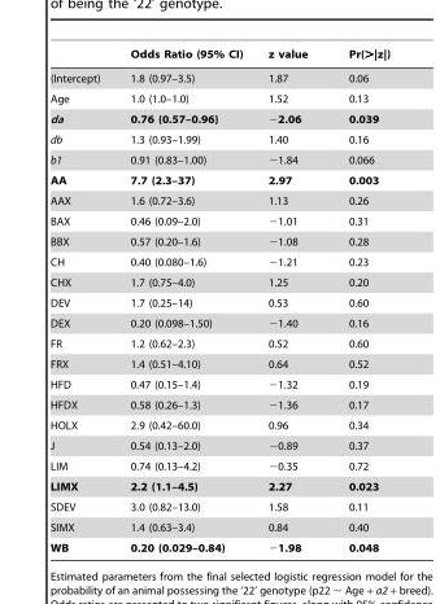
<table><thead><tr><td></td><td>Odds Ratio (95% CI)</td><td>z value</td><td>Pr(&gt;|z|)</td></tr></thead><tbody><tr><td>(Intercept)</td><td>1.8 (0.97–3.5)</td><td>1.87</td><td>0.06</td></tr><tr><td>Age</td><td>1.0 (1.0–1.0)</td><td>1.52</td><td>0.13</td></tr><tr><td>da</td><td>0.76 (0.57–0.96)</td><td>−2.06</td><td>0.039</td></tr><tr><td>db</td><td>1.3 (0.93–1.99)</td><td>1.40</td><td>0.16</td></tr><tr><td>b1</td><td>0.91 (0.83–1.00)</td><td>−1.84</td><td>0.066</td></tr><tr><td>AA</td><td>7.7 (2.3–37)</td><td>2.97</td><td>0.003</td></tr><tr><td>AAX</td><td>1.6 (0.72–3.6)</td><td>1.13</td><td>0.26</td></tr><tr><td>BAX</td><td>0.46 (0.09–2.0)</td><td>−1.01</td><td>0.31</td></tr><tr><td>BBX</td><td>0.57 (0.20–1.6)</td><td>−1.08</td><td>0.28</td></tr><tr><td>CH</td><td>0.40 (0.080–1.6)</td><td>−1.21</td><td>0.23</td></tr><tr><td>CHX</td><td>1.7 (0.75–4.0)</td><td>1.25</td><td>0.20</td></tr><tr><td>DEV</td><td>1.7 (0.25–14)</td><td>0.53</td><td>0.60</td></tr><tr><td>DEX</td><td>0.20 (0.098–1.50)</td><td>−1.40</td><td>0.16</td></tr><tr><td>FR</td><td>1.2 (0.62–2.3)</td><td>0.52</td><td>0.60</td></tr><tr><td>FRX</td><td>1.4 (0.51–4.10)</td><td>0.64</td><td>0.52</td></tr><tr><td>HFD</td><td>0.47 (0.15–1.4)</td><td>−1.32</td><td>0.19</td></tr><tr><td>HFDX</td><td>0.58 (0.26–1.3)</td><td>−1.36</td><td>0.17</td></tr><tr><td>HOLX</td><td>2.9 (0.42–60.0)</td><td>0.96</td><td>0.34</td></tr><tr><td>J</td><td>0.54 (0.13–2.0)</td><td>−0.89</td><td>0.37</td></tr><tr><td>LIM</td><td>0.74 (0.13–4.2)</td><td>−0.35</td><td>0.72</td></tr><tr><td>LIMX</td><td>2.2 (1.1–4.5)</td><td>2.27</td><td>0.023</td></tr><tr><td>SDEV</td><td>3.0 (0.82–13.0)</td><td>1.58</td><td>0.11</td></tr><tr><td>SIMX</td><td>1.4 (0.63–3.4)</td><td>0.84</td><td>0.40</td></tr><tr><td>WB</td><td>0.20 (0.029–0.84)</td><td>−1.98</td><td>0.048</td></tr></tbody></table>